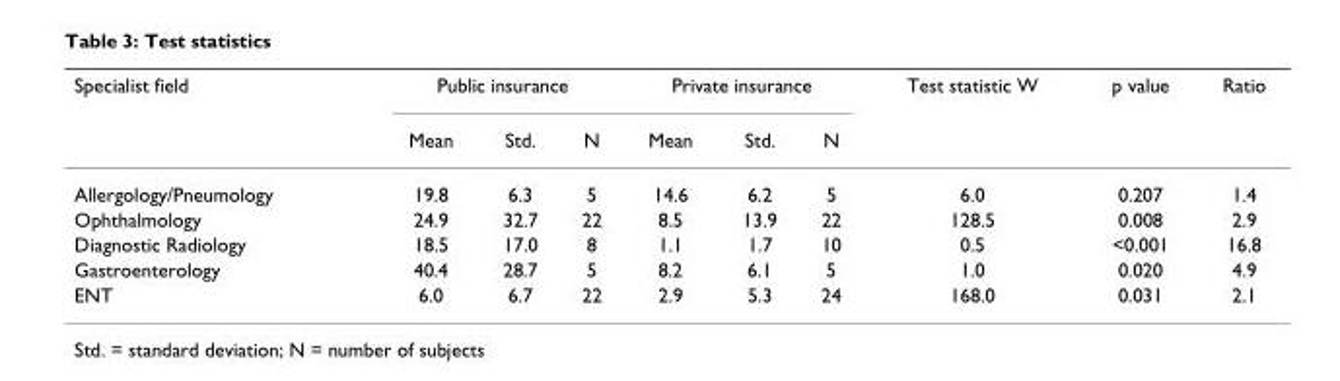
<table><thead><tr><td rowspan="2">Specialist field</td><td colspan="3">Public insurance</td><td colspan="3">Private insurance</td><td rowspan="2">Test statistic W</td><td rowspan="2">p value</td><td rowspan="2">Ratio</td></tr><tr><td>Mean</td><td>Std.</td><td>N</td><td>Mean</td><td>Std.</td><td>N</td></tr></thead><tbody><tr><td>Allergology/Pneumology</td><td>19.8</td><td>6.3</td><td>5</td><td>14.6</td><td>6.2</td><td>5</td><td>6.0</td><td>0.207</td><td>1.4</td></tr><tr><td>Ophthalmology</td><td>24.9</td><td>32.7</td><td>22</td><td>8.5</td><td>13.9</td><td>22</td><td>128.5</td><td>0.008</td><td>2.9</td></tr><tr><td>Diagnostic Radiology</td><td>18.5</td><td>17.0</td><td>8</td><td>1.1</td><td>1.7</td><td>10</td><td>0.5</td><td>&lt;0.001</td><td>16.8</td></tr><tr><td>Gastroenterology</td><td>40.4</td><td>28.7</td><td>5</td><td>8.2</td><td>6.1</td><td>5</td><td>1.0</td><td>0.020</td><td>4.9</td></tr><tr><td>ENT</td><td>6.0</td><td>6.7</td><td>22</td><td>2.9</td><td>5.3</td><td>24</td><td>168.0</td><td>0.031</td><td>2.1</td></tr></tbody></table>